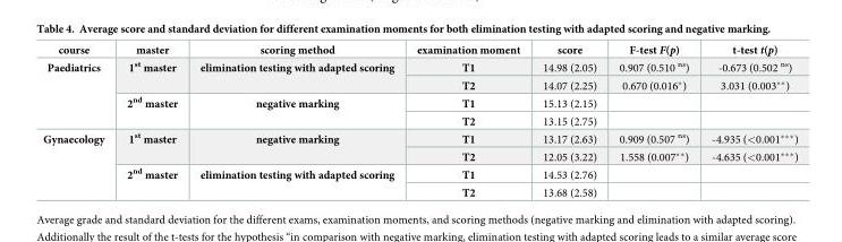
<table><thead><tr><td>course</td><td>master</td><td>scoring method</td><td>examination moment</td><td>score</td><td>F-test F(p)</td><td>t-test t(p)</td></tr></thead><tbody><tr><td rowspan="4">Paediatrics</td><td rowspan="2">1<sup>st</sup> master</td><td rowspan="2">elimination testing with adapted scoring</td><td>T1</td><td>14.98 (2.05)</td><td>0.907 (0.510 <sup>ns</sup>)</td><td>-0.673 (0.502 <sup>ns</sup>)</td></tr><tr><td>T2</td><td>14.07 (2.25)</td><td>0.670 (0.016*)</td><td>3.031 (0.003**)</td></tr><tr><td rowspan="2">2<sup>nd</sup> master</td><td rowspan="2">negative marking</td><td>T1</td><td>15.13 (2.15)</td><td></td><td></td></tr><tr><td>T2</td><td>13.15 (2.75)</td><td></td><td></td></tr><tr><td rowspan="4">Gynaecology</td><td rowspan="2">1<sup>st</sup> master</td><td rowspan="2">negative marking</td><td>T1</td><td>13.17 (2.63)</td><td>0.909 (0.507 <sup>ns</sup>)</td><td>-4.935 (&lt;0.001***)</td></tr><tr><td>T2</td><td>12.05 (3.22)</td><td>1.558 (0.007**)</td><td>-4.635 (&lt;0.001***)</td></tr><tr><td rowspan="2">2<sup>nd</sup> master</td><td rowspan="2">elimination testing with adapted scoring</td><td>T1</td><td>14.53 (2.76)</td><td></td><td></td></tr><tr><td>T2</td><td>13.68 (2.58)</td><td></td><td></td></tr></tbody></table>